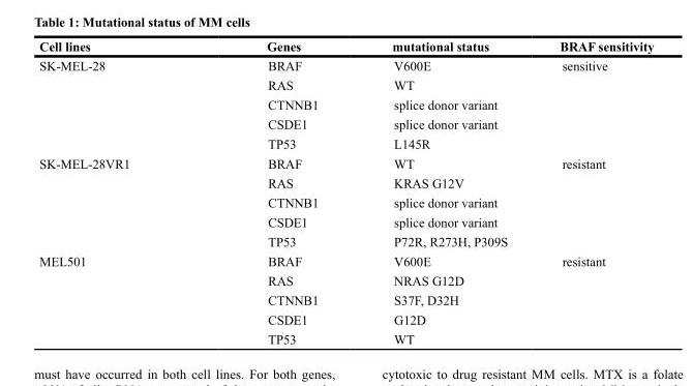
<table><thead><tr><td>Cell lines</td><td>Genes</td><td>mutational status</td><td>BRAF sensitivity</td></tr></thead><tbody><tr><td rowspan="5">SK-MEL-28</td><td>BRAF</td><td>V600E</td><td>sensitive</td></tr><tr><td>RAS</td><td>WT</td><td></td></tr><tr><td>CTNNB1</td><td>splice donor variant</td><td></td></tr><tr><td>CSDE1</td><td>splice donor variant</td><td></td></tr><tr><td>TP53</td><td>L145R</td><td></td></tr><tr><td rowspan="5">SK-MEL-28VR1</td><td>BRAF</td><td>WT</td><td>resistant</td></tr><tr><td>RAS</td><td>KRAS G12V</td><td></td></tr><tr><td>CTNNB1</td><td>splice donor variant</td><td></td></tr><tr><td>CSDE1</td><td>splice donor variant</td><td></td></tr><tr><td>TP53</td><td>P72R, R273H, P309S</td><td></td></tr><tr><td rowspan="5">MEL501</td><td>BRAF</td><td>V600E</td><td>resistant</td></tr><tr><td>RAS</td><td>NRAS G12D</td><td></td></tr><tr><td>CTNNB1</td><td>S37F, D32H</td><td></td></tr><tr><td>CSDE1</td><td>G12D</td><td></td></tr><tr><td>TP53</td><td>WT</td><td></td></tr></tbody></table>